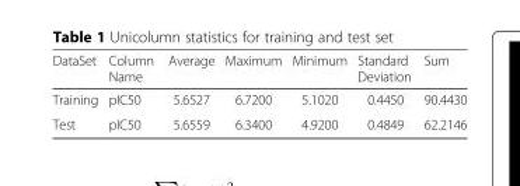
<table><thead><tr><td>DataSet</td><td>Column Name</td><td>Average</td><td>Maximum</td><td>Minimum</td><td>Standard Deviation</td><td>Sum</td></tr></thead><tbody><tr><td>Training</td><td>pIC50</td><td>5.6527</td><td>6.7200</td><td>5.1020</td><td>0.4450</td><td>90.4430</td></tr><tr><td>Test</td><td>pIC50</td><td>5.6559</td><td>6.3400</td><td>4.9200</td><td>0.4849</td><td>62.2146</td></tr></tbody></table>